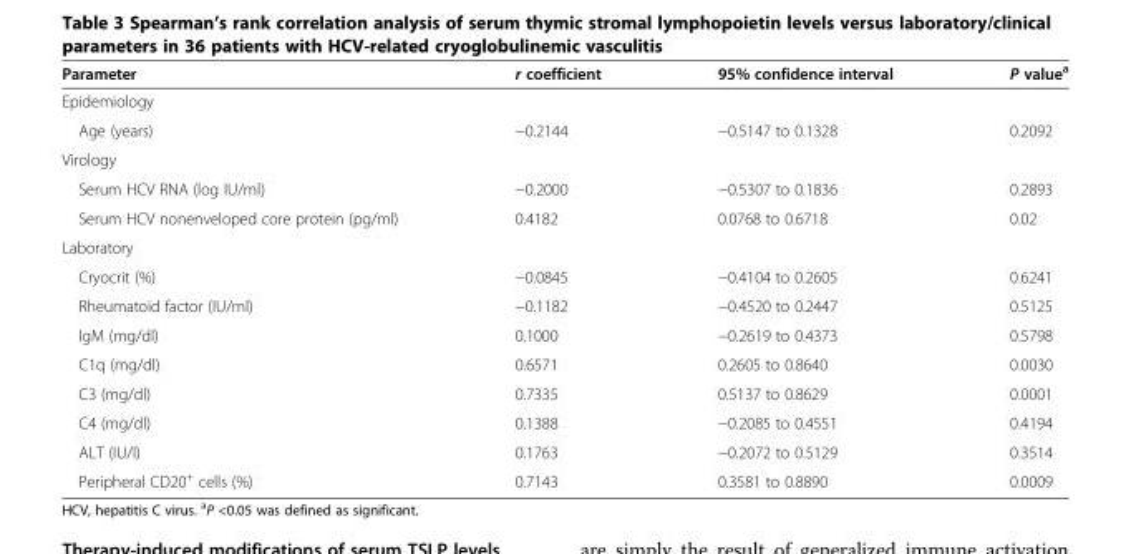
<table><thead><tr><td>Parameter</td><td>r coefficient</td><td>95% confidence interval</td><td>P value<sup>a</sup></td></tr></thead><tbody><tr><td colspan="4">Epidemiology</td></tr><tr><td>Age (years)</td><td>−0.2144</td><td>−0.5147 to 0.1328</td><td>0.2092</td></tr><tr><td colspan="4">Virology</td></tr><tr><td>Serum HCV RNA (log IU/ml)</td><td>−0.2000</td><td>−0.5307 to 0.1836</td><td>0.2893</td></tr><tr><td>Serum HCV nonenveloped core protein (pg/ml)</td><td>0.4182</td><td>0.0768 to 0.6718</td><td>0.02</td></tr><tr><td colspan="4">Laboratory</td></tr><tr><td>Cryocrit (%)</td><td>−0.0845</td><td>−0.4104 to 0.2605</td><td>0.6241</td></tr><tr><td>Rheumatoid factor (IU/ml)</td><td>−0.1182</td><td>−0.4520 to 0.2447</td><td>0.5125</td></tr><tr><td>IgM (mg/dl)</td><td>0.1000</td><td>−0.2619 to 0.4373</td><td>0.5798</td></tr><tr><td>C1q (mg/dl)</td><td>0.6571</td><td>0.2605 to 0.8640</td><td>0.0030</td></tr><tr><td>C3 (mg/dl)</td><td>0.7335</td><td>0.5137 to 0.8629</td><td>0.0001</td></tr><tr><td>C4 (mg/dl)</td><td>0.1388</td><td>−0.2085 to 0.4551</td><td>0.4194</td></tr><tr><td>ALT (IU/l)</td><td>0.1763</td><td>−0.2072 to 0.5129</td><td>0.3514</td></tr><tr><td>Peripheral CD20<sup>+</sup> cells (%)</td><td>0.7143</td><td>0.3581 to 0.8890</td><td>0.0009</td></tr></tbody></table>